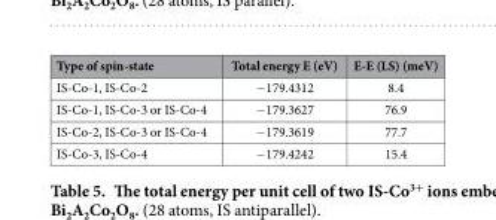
<table><thead><tr><td>Type of spin-state</td><td>Total energy E (eV)</td><td>E-E (LS) (meV)</td></tr></thead><tbody><tr><td>IS-Co-1, IS-Co-2</td><td>− 179.4312</td><td>8.4</td></tr><tr><td>IS-Co-1, IS-Co-3 or IS-Co-4</td><td>− 179.3627</td><td>76.9</td></tr><tr><td>IS-Co-2, IS-Co-3 or IS-Co-4</td><td>− 179.3619</td><td>77.7</td></tr><tr><td>IS-Co-3, IS-Co-4</td><td>− 179.4242</td><td>15.4</td></tr></tbody></table>